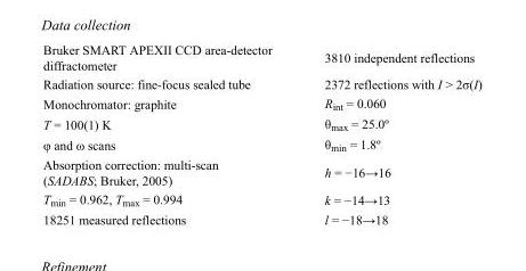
<table><tbody><tr><td>Bruker SMART APEXII CCD area-detector diffractometer</td><td>3810 independent reflections</td></tr><tr><td>Radiation source: fine-focus sealed tube</td><td>2372 reflections with I &gt; 2σ(I)</td></tr><tr><td>Monochromator: graphite</td><td>R<sub>int</sub> = 0.060</td></tr><tr><td>T = 100(1) K</td><td>θ<sub>max</sub> = 25.0º</td></tr><tr><td>φ and ω scans</td><td>θ<sub>min</sub> = 1.8º</td></tr><tr><td>Absorption correction: multi-scan (SADABS; Bruker, 2005)</td><td>h = −16→16</td></tr><tr><td>T<sub>min</sub> = 0.962, T<sub>max</sub> = 0.994</td><td>k = −14→13</td></tr><tr><td>18251 measured reflections</td><td>l = −18→18</td></tr></tbody></table>